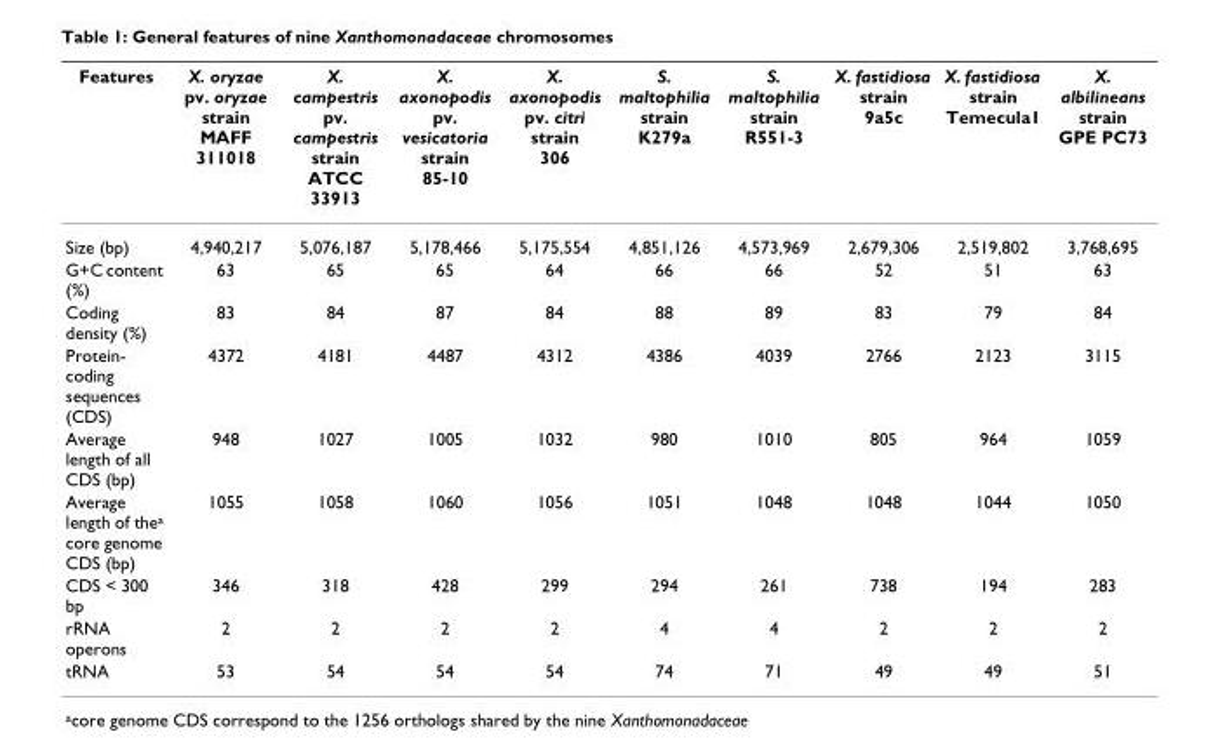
<table><thead><tr><td>Features</td><td>X. oryzae pv. oryzae strain MAFF 311018</td><td>X. campestris pv. campestris strain ATCC 33913</td><td>X. axonopodis pv. vesicatoria strain 85-10</td><td>X. axonopodis pv. citri strain 306</td><td>S. maltophilia strain K279a</td><td>S. maltophilia strain R551-3</td><td>X. fastidiosa strain 9a5c</td><td>X. fastidiosa strain Temecula1</td><td>X. albilineans strain GPE PC73</td></tr></thead><tbody><tr><td>Size (bp)</td><td>4,940,217</td><td>5,076,187</td><td>5,178,466</td><td>5,175,554</td><td>4,851,126</td><td>4,573,969</td><td>2,679,306</td><td>2,519,802</td><td>3,768,695</td></tr><tr><td>G+C content (%)</td><td>63</td><td>65</td><td>65</td><td>64</td><td>66</td><td>66</td><td>52</td><td>51</td><td>63</td></tr><tr><td>Coding density (%)</td><td>83</td><td>84</td><td>87</td><td>84</td><td>88</td><td>89</td><td>83</td><td>79</td><td>84</td></tr><tr><td>Protein- coding sequences (CDS)</td><td>4372</td><td>4181</td><td>4487</td><td>4312</td><td>4386</td><td>4039</td><td>2766</td><td>2123</td><td>3115</td></tr><tr><td>Average length of all CDS (bp)</td><td>948</td><td>1027</td><td>1005</td><td>1032</td><td>980</td><td>1010</td><td>805</td><td>964</td><td>1059</td></tr><tr><td>Average length of the<sup>a</sup> core genome CDS (bp)</td><td>1055</td><td>1058</td><td>1060</td><td>1056</td><td>1051</td><td>1048</td><td>1048</td><td>1044</td><td>1050</td></tr><tr><td>CDS &lt; 300 bp</td><td>346</td><td>318</td><td>428</td><td>299</td><td>294</td><td>261</td><td>738</td><td>194</td><td>283</td></tr><tr><td>rRNA operons</td><td>2</td><td>2</td><td>2</td><td>2</td><td>4</td><td>4</td><td>2</td><td>2</td><td>2</td></tr><tr><td>tRNA</td><td>53</td><td>54</td><td>54</td><td>54</td><td>74</td><td>71</td><td>49</td><td>49</td><td>51</td></tr></tbody></table>